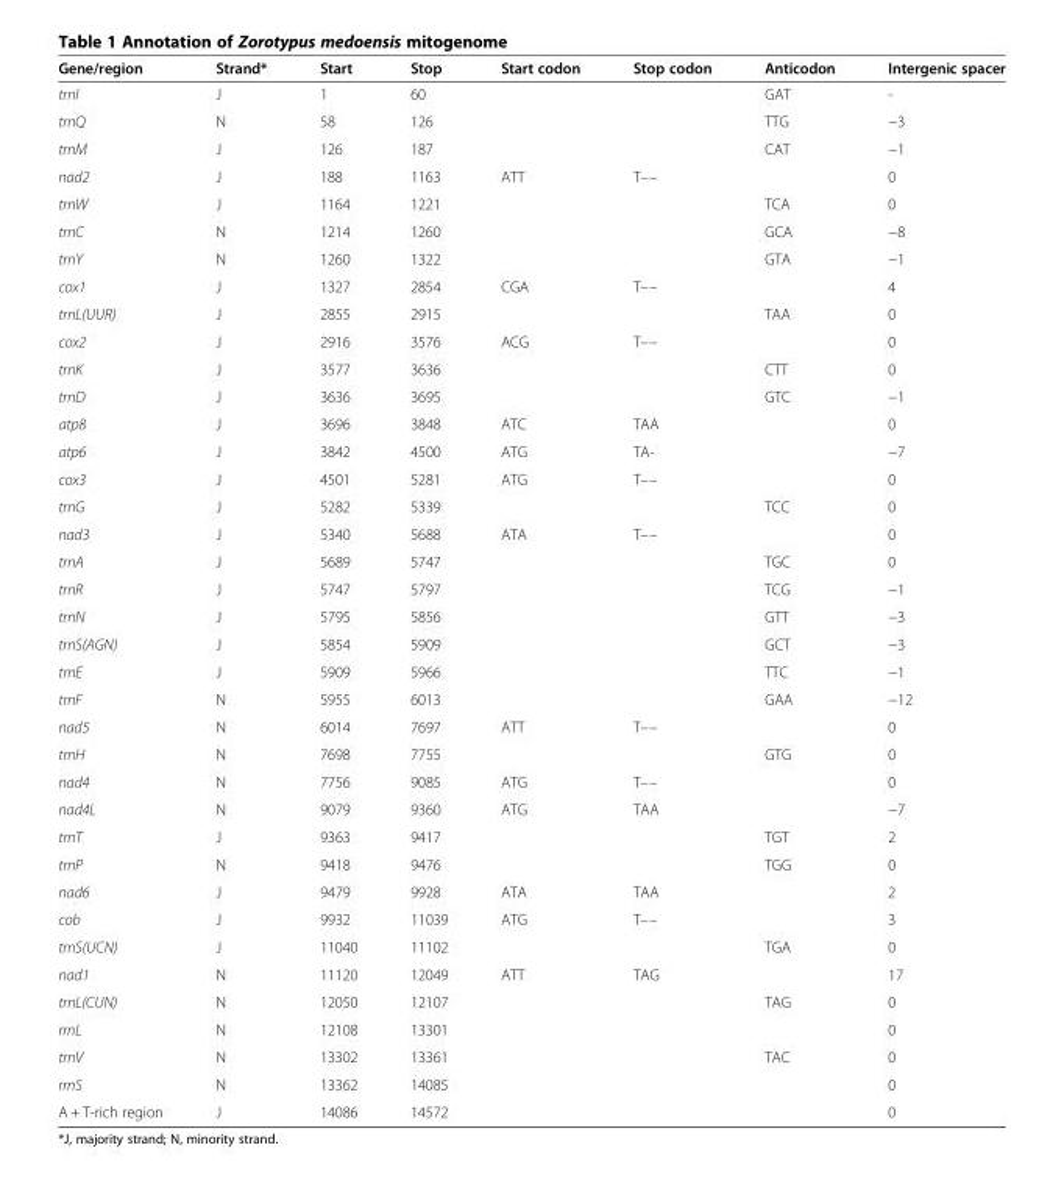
<table><thead><tr><td>Gene/region</td><td>Strand*</td><td>Start</td><td>Stop</td><td>Start codon</td><td>Stop codon</td><td>Anticodon</td><td>Intergenic spacer</td></tr></thead><tbody><tr><td>trnI</td><td>J</td><td>1</td><td>60</td><td></td><td></td><td>GAT</td><td>-</td></tr><tr><td>trnQ</td><td>N</td><td>58</td><td>126</td><td></td><td></td><td>TTG</td><td>−3</td></tr><tr><td>trnM</td><td>J</td><td>126</td><td>187</td><td></td><td></td><td>CAT</td><td>−1</td></tr><tr><td>nad2</td><td>J</td><td>188</td><td>1163</td><td>ATT</td><td>T––</td><td></td><td>0</td></tr><tr><td>trnW</td><td>J</td><td>1164</td><td>1221</td><td></td><td></td><td>TCA</td><td>0</td></tr><tr><td>trnC</td><td>N</td><td>1214</td><td>1260</td><td></td><td></td><td>GCA</td><td>−8</td></tr><tr><td>trnY</td><td>N</td><td>1260</td><td>1322</td><td></td><td></td><td>GTA</td><td>−1</td></tr><tr><td>cox1</td><td>J</td><td>1327</td><td>2854</td><td>CGA</td><td>T––</td><td></td><td>4</td></tr><tr><td>trnL(UUR)</td><td>J</td><td>2855</td><td>2915</td><td></td><td></td><td>TAA</td><td>0</td></tr><tr><td>cox2</td><td>J</td><td>2916</td><td>3576</td><td>ACG</td><td>T––</td><td></td><td>0</td></tr><tr><td>trnK</td><td>J</td><td>3577</td><td>3636</td><td></td><td></td><td>CTT</td><td>0</td></tr><tr><td>trnD</td><td>J</td><td>3636</td><td>3695</td><td></td><td></td><td>GTC</td><td>−1</td></tr><tr><td>atp8</td><td>J</td><td>3696</td><td>3848</td><td>ATC</td><td>TAA</td><td></td><td>0</td></tr><tr><td>atp6</td><td>J</td><td>3842</td><td>4500</td><td>ATG</td><td>TA-</td><td></td><td>−7</td></tr><tr><td>cox3</td><td>J</td><td>4501</td><td>5281</td><td>ATG</td><td>T––</td><td></td><td>0</td></tr><tr><td>trnG</td><td>J</td><td>5282</td><td>5339</td><td></td><td></td><td>TCC</td><td>0</td></tr><tr><td>nad3</td><td>J</td><td>5340</td><td>5688</td><td>ATA</td><td>T––</td><td></td><td>0</td></tr><tr><td>trnA</td><td>J</td><td>5689</td><td>5747</td><td></td><td></td><td>TGC</td><td>0</td></tr><tr><td>trnR</td><td>J</td><td>5747</td><td>5797</td><td></td><td></td><td>TCG</td><td>−1</td></tr><tr><td>trnN</td><td>J</td><td>5795</td><td>5856</td><td></td><td></td><td>GTT</td><td>−3</td></tr><tr><td>trnS(AGN)</td><td>J</td><td>5854</td><td>5909</td><td></td><td></td><td>GCT</td><td>−3</td></tr><tr><td>trnE</td><td>J</td><td>5909</td><td>5966</td><td></td><td></td><td>TTC</td><td>−1</td></tr><tr><td>trnF</td><td>N</td><td>5955</td><td>6013</td><td></td><td></td><td>GAA</td><td>−12</td></tr><tr><td>nad5</td><td>N</td><td>6014</td><td>7697</td><td>ATT</td><td>T––</td><td></td><td>0</td></tr><tr><td>trnH</td><td>N</td><td>7698</td><td>7755</td><td></td><td></td><td>GTG</td><td>0</td></tr><tr><td>nad4</td><td>N</td><td>7756</td><td>9085</td><td>ATG</td><td>T––</td><td></td><td>0</td></tr><tr><td>nad4L</td><td>N</td><td>9079</td><td>9360</td><td>ATG</td><td>TAA</td><td></td><td>−7</td></tr><tr><td>trnT</td><td>J</td><td>9363</td><td>9417</td><td></td><td></td><td>TGT</td><td>2</td></tr><tr><td>trnP</td><td>N</td><td>9418</td><td>9476</td><td></td><td></td><td>TGG</td><td>0</td></tr><tr><td>nad6</td><td>J</td><td>9479</td><td>9928</td><td>ATA</td><td>TAA</td><td></td><td>2</td></tr><tr><td>cob</td><td>J</td><td>9932</td><td>11039</td><td>ATG</td><td>T––</td><td></td><td>3</td></tr><tr><td>trnS(UCN)</td><td>J</td><td>11040</td><td>11102</td><td></td><td></td><td>TGA</td><td>0</td></tr><tr><td>nad1</td><td>N</td><td>11120</td><td>12049</td><td>ATT</td><td>TAG</td><td></td><td>17</td></tr><tr><td>trnL(CUN)</td><td>N</td><td>12050</td><td>12107</td><td></td><td></td><td>TAG</td><td>0</td></tr><tr><td>rrnL</td><td>N</td><td>12108</td><td>13301</td><td></td><td></td><td></td><td>0</td></tr><tr><td>trnV</td><td>N</td><td>13302</td><td>13361</td><td></td><td></td><td>TAC</td><td>0</td></tr><tr><td>rrnS</td><td>N</td><td>13362</td><td>14085</td><td></td><td></td><td></td><td>0</td></tr><tr><td>A + T-rich region</td><td>J</td><td>14086</td><td>14572</td><td></td><td></td><td></td><td>0</td></tr></tbody></table>